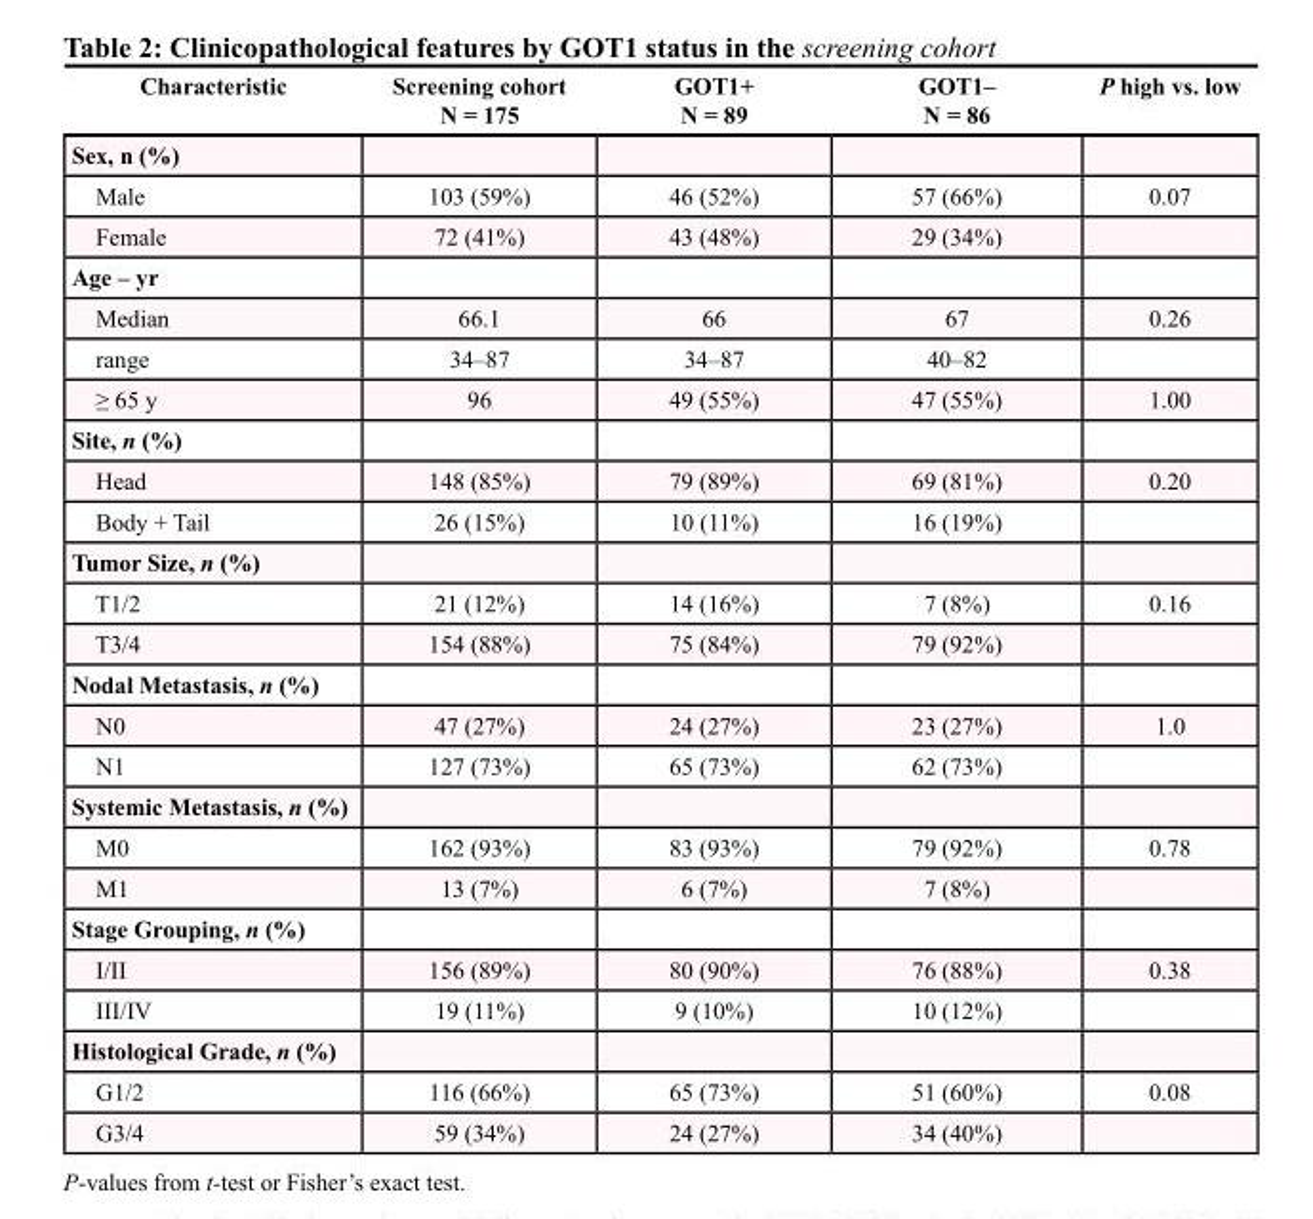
<table><thead><tr><td>Characteristic</td><td>Screening cohort N = 175</td><td>GOT1+ N = 89</td><td>GOT1– N = 86</td><td>P high vs. low</td></tr></thead><tbody><tr><td colspan="5">Sex, n (%)</td></tr><tr><td>Male</td><td>103 (59%)</td><td>46 (52%)</td><td>57 (66%)</td><td>0.07</td></tr><tr><td>Female</td><td>72 (41%)</td><td>43 (48%)</td><td>29 (34%)</td><td></td></tr><tr><td colspan="5">Age – yr</td></tr><tr><td>Median</td><td>66.1</td><td>66</td><td>67</td><td>0.26</td></tr><tr><td>range</td><td>34–87</td><td>34–87</td><td>40–82</td><td></td></tr><tr><td>≥ 65 y</td><td>96</td><td>49 (55%)</td><td>47 (55%)</td><td>1.00</td></tr><tr><td colspan="5">Site, n (%)</td></tr><tr><td>Head</td><td>148 (85%)</td><td>79 (89%)</td><td>69 (81%)</td><td>0.20</td></tr><tr><td>Body + Tail</td><td>26 (15%)</td><td>10 (11%)</td><td>16 (19%)</td><td></td></tr><tr><td colspan="5">Tumor Size, n (%)</td></tr><tr><td>T1/2</td><td>21 (12%)</td><td>14 (16%)</td><td>7 (8%)</td><td>0.16</td></tr><tr><td>T3/4</td><td>154 (88%)</td><td>75 (84%)</td><td>79 (92%)</td><td></td></tr><tr><td colspan="5">Nodal Metastasis, n (%)</td></tr><tr><td>N0</td><td>47 (27%)</td><td>24 (27%)</td><td>23 (27%)</td><td>1.0</td></tr><tr><td>N1</td><td>127 (73%)</td><td>65 (73%)</td><td>62 (73%)</td><td></td></tr><tr><td colspan="5">Systemic Metastasis, n (%)</td></tr><tr><td>M0</td><td>162 (93%)</td><td>83 (93%)</td><td>79 (92%)</td><td>0.78</td></tr><tr><td>M1</td><td>13 (7%)</td><td>6 (7%)</td><td>7 (8%)</td><td></td></tr><tr><td colspan="5">Stage Grouping, n (%)</td></tr><tr><td>I/II</td><td>156 (89%)</td><td>80 (90%)</td><td>76 (88%)</td><td>0.38</td></tr><tr><td>III/IV</td><td>19 (11%)</td><td>9 (10%)</td><td>10 (12%)</td><td></td></tr><tr><td colspan="5">Histological Grade, n (%)</td></tr><tr><td>G1/2</td><td>116 (66%)</td><td>65 (73%)</td><td>51 (60%)</td><td>0.08</td></tr><tr><td>G3/4</td><td>59 (34%)</td><td>24 (27%)</td><td>34 (40%)</td><td></td></tr></tbody></table>